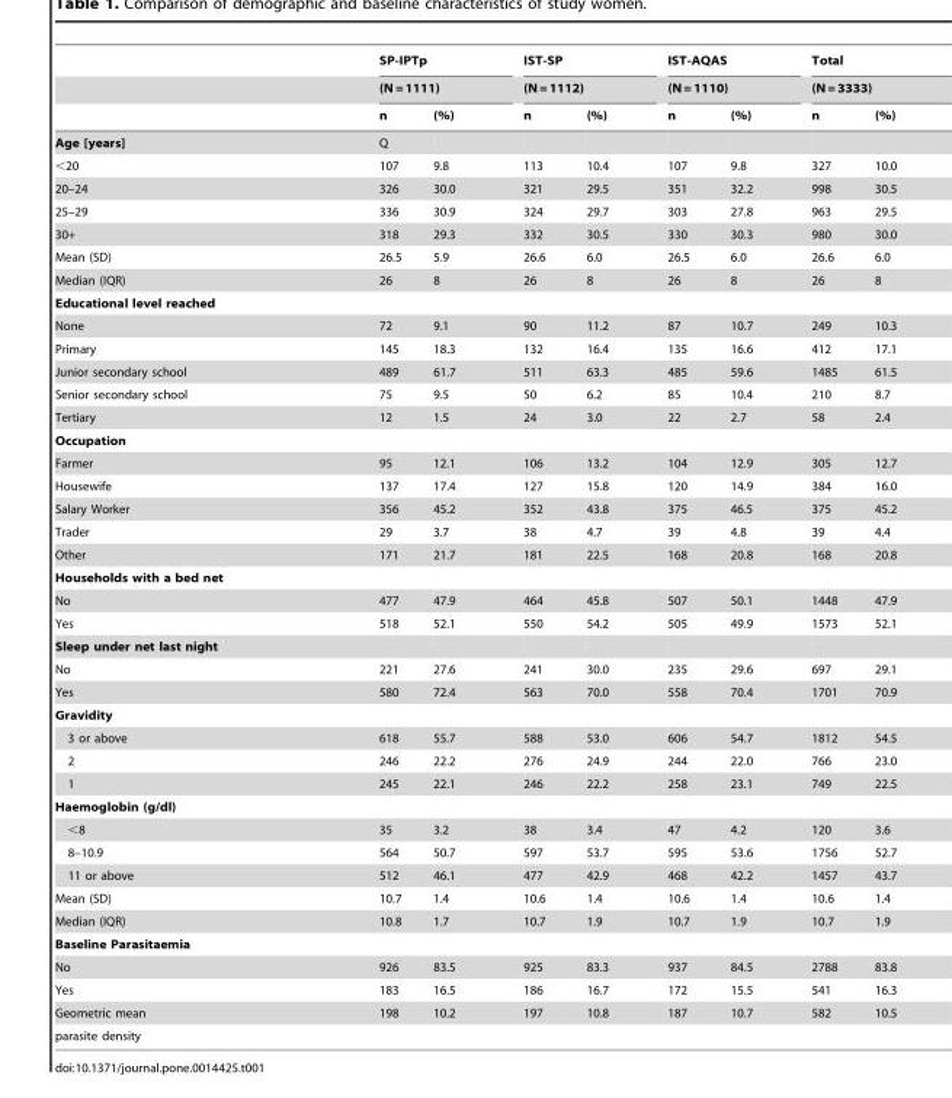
<table><thead><tr><td rowspan="3"></td><td rowspan="2" colspan="2">SP-IPTp (N = 1111)</td><td rowspan="2" colspan="2">IST-SP (N = 1112)</td><td rowspan="2" colspan="2">IST-AQAS (N = 1110)</td><td rowspan="2" colspan="2">Total (N = 3333)</td></tr><tr></tr><tr><td>n</td><td>(%)</td><td>n</td><td>(%)</td><td>n</td><td>(%)</td><td>n</td><td>(%)</td></tr></thead><tbody><tr><td>Age [years]</td><td>Q</td><td></td><td></td><td></td><td></td><td></td><td></td><td></td></tr><tr><td>&lt;20</td><td>107</td><td>9.8</td><td>113</td><td>10.4</td><td>107</td><td>9.8</td><td>327</td><td>10.0</td></tr><tr><td>20–24</td><td>326</td><td>30.0</td><td>321</td><td>29.5</td><td>351</td><td>32.2</td><td>998</td><td>30.5</td></tr><tr><td>25–29</td><td>336</td><td>30.9</td><td>324</td><td>29.7</td><td>303</td><td>27.8</td><td>963</td><td>29.5</td></tr><tr><td>30+</td><td>318</td><td>29.3</td><td>332</td><td>30.5</td><td>330</td><td>30.3</td><td>980</td><td>30.0</td></tr><tr><td>Mean (SD)</td><td>26.5</td><td>5.9</td><td>26.6</td><td>6.0</td><td>26.5</td><td>6.0</td><td>26.6</td><td>6.0</td></tr><tr><td>Median (IQR)</td><td>26</td><td>8</td><td>26</td><td>8</td><td>26</td><td>8</td><td>26</td><td>8</td></tr><tr><td colspan="9">Educational level reached</td></tr><tr><td>None</td><td>72</td><td>9.1</td><td>90</td><td>11.2</td><td>87</td><td>10.7</td><td>249</td><td>10.3</td></tr><tr><td>Primary</td><td>145</td><td>18.3</td><td>132</td><td>16.4</td><td>135</td><td>16.6</td><td>412</td><td>17.1</td></tr><tr><td>Junior secondary school</td><td>489</td><td>61.7</td><td>511</td><td>63.3</td><td>485</td><td>59.6</td><td>1485</td><td>61.5</td></tr><tr><td>Senior secondary school</td><td>75</td><td>9.5</td><td>50</td><td>6.2</td><td>85</td><td>10.4</td><td>210</td><td>8.7</td></tr><tr><td>Tertiary</td><td>12</td><td>1.5</td><td>24</td><td>3.0</td><td>22</td><td>2.7</td><td>58</td><td>2.4</td></tr><tr><td colspan="9">Occupation</td></tr><tr><td>Farmer</td><td>95</td><td>12.1</td><td>106</td><td>13.2</td><td>104</td><td>12.9</td><td>305</td><td>12.7</td></tr><tr><td>Housewife</td><td>137</td><td>17.4</td><td>127</td><td>15.8</td><td>120</td><td>14.9</td><td>384</td><td>16.0</td></tr><tr><td>Salary Worker</td><td>356</td><td>45.2</td><td>352</td><td>43.8</td><td>375</td><td>46.5</td><td>375</td><td>45.2</td></tr><tr><td>Trader</td><td>29</td><td>3.7</td><td>38</td><td>4.7</td><td>39</td><td>4.8</td><td>39</td><td>4.4</td></tr><tr><td>Other</td><td>171</td><td>21.7</td><td>181</td><td>22.5</td><td>168</td><td>20.8</td><td>168</td><td>20.8</td></tr><tr><td colspan="9">Households with a bed net</td></tr><tr><td>No</td><td>477</td><td>47.9</td><td>464</td><td>45.8</td><td>507</td><td>50.1</td><td>1448</td><td>47.9</td></tr><tr><td>Yes</td><td>518</td><td>52.1</td><td>550</td><td>54.2</td><td>505</td><td>49.9</td><td>1573</td><td>52.1</td></tr><tr><td colspan="9">Sleep under net last night</td></tr><tr><td>No</td><td>221</td><td>27.6</td><td>241</td><td>30.0</td><td>235</td><td>29.6</td><td>697</td><td>29.1</td></tr><tr><td>Yes</td><td>580</td><td>72.4</td><td>563</td><td>70.0</td><td>558</td><td>70.4</td><td>1701</td><td>70.9</td></tr><tr><td colspan="9">Gravidity</td></tr><tr><td>3 or above</td><td>618</td><td>55.7</td><td>588</td><td>53.0</td><td>606</td><td>54.7</td><td>1812</td><td>54.5</td></tr><tr><td>2</td><td>246</td><td>22.2</td><td>276</td><td>24.9</td><td>244</td><td>22.0</td><td>766</td><td>23.0</td></tr><tr><td>1</td><td>245</td><td>22.1</td><td>246</td><td>22.2</td><td>258</td><td>23.1</td><td>749</td><td>22.5</td></tr><tr><td colspan="9">Haemoglobin (g/dl)</td></tr><tr><td>&lt;8</td><td>35</td><td>3.2</td><td>38</td><td>3.4</td><td>47</td><td>4.2</td><td>120</td><td>3.6</td></tr><tr><td>8–10.9</td><td>564</td><td>50.7</td><td>597</td><td>53.7</td><td>595</td><td>53.6</td><td>1756</td><td>52.7</td></tr><tr><td>11 or above</td><td>512</td><td>46.1</td><td>477</td><td>42.9</td><td>468</td><td>42.2</td><td>1457</td><td>43.7</td></tr><tr><td>Mean (SD)</td><td>10.7</td><td>1.4</td><td>10.6</td><td>1.4</td><td>10.6</td><td>1.4</td><td>10.6</td><td>1.4</td></tr><tr><td>Median (IQR)</td><td>10.8</td><td>1.7</td><td>10.7</td><td>1.9</td><td>10.7</td><td>1.9</td><td>10.7</td><td>1.9</td></tr><tr><td colspan="9">Baseline Parasitaemia</td></tr><tr><td>No</td><td>926</td><td>83.5</td><td>925</td><td>83.3</td><td>937</td><td>84.5</td><td>2788</td><td>83.8</td></tr><tr><td>Yes</td><td>183</td><td>16.5</td><td>186</td><td>16.7</td><td>172</td><td>15.5</td><td>541</td><td>16.3</td></tr><tr><td>Geometric mean</td><td>198</td><td>10.2</td><td>197</td><td>10.8</td><td>187</td><td>10.7</td><td>582</td><td>10.5</td></tr><tr><td>parasite density</td><td></td><td></td><td></td><td></td><td></td><td></td><td></td><td></td></tr></tbody></table>